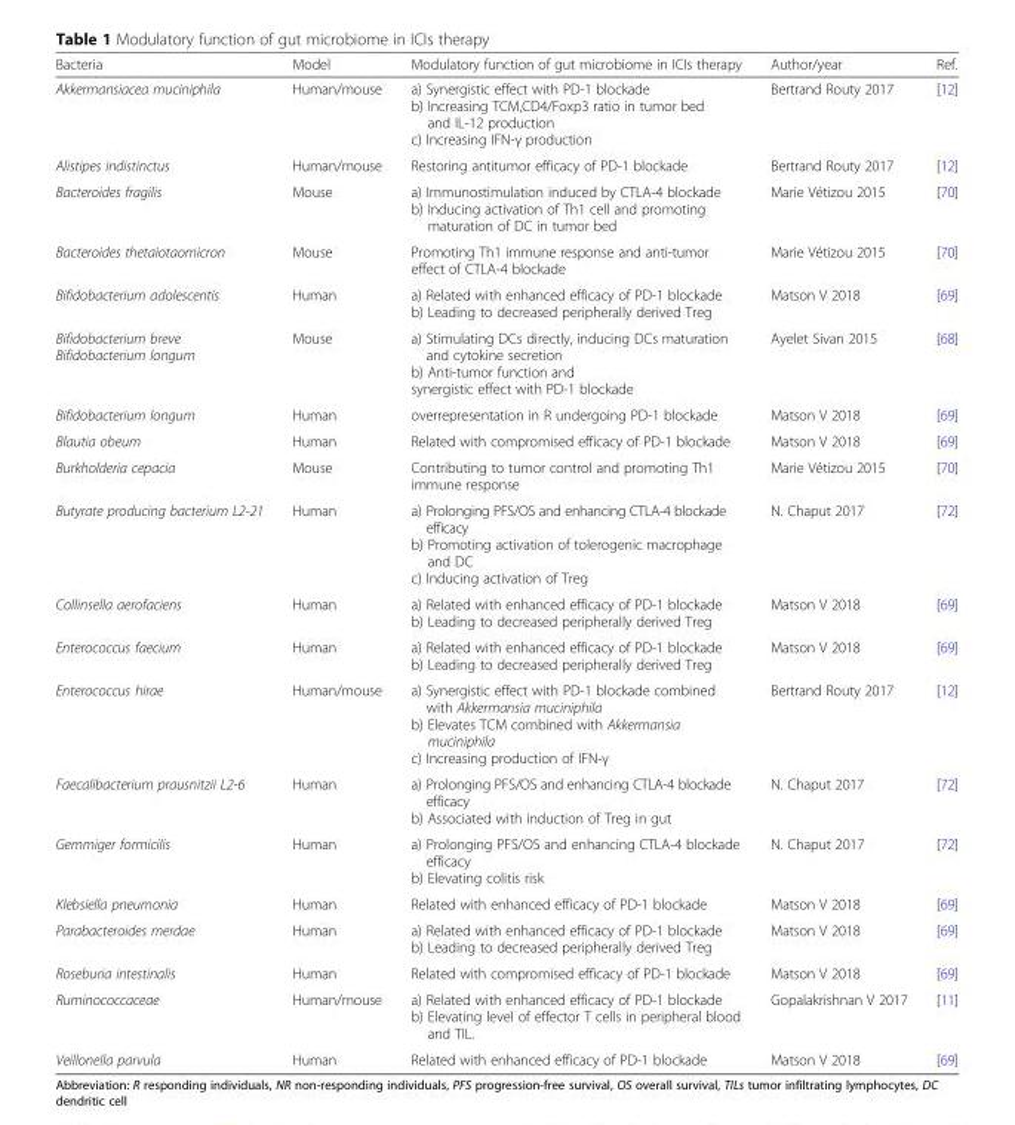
<table><thead><tr><td>Bacteria</td><td>Model</td><td>Modulatory function of gut microbiome in ICIs therapy</td><td>Author/year</td><td>Ref.</td></tr></thead><tbody><tr><td>Akkermansiacea muciniphila</td><td>Human/mouse</td><td>a) Synergistic effect with PD-1 blockade b) Increasing TCM,CD4/Foxp3 ratio in tumor bed and IL-12 production c) Increasing IFN-γ production</td><td>Bertrand Routy 2017</td><td>[12]</td></tr><tr><td>Alistipes indistinctus</td><td>Human/mouse</td><td>Restoring antitumor efficacy of PD-1 blockade</td><td>Bertrand Routy 2017</td><td>[12]</td></tr><tr><td>Bacteroides fragilis</td><td>Mouse</td><td>a) Immunostimulation induced by CTLA-4 blockade b) Inducing activation of Th1 cell and promoting maturation of DC in tumor bed</td><td>Marie Vétizou 2015</td><td>[70]</td></tr><tr><td>Bacteroides thetaiotaomicron</td><td>Mouse</td><td>Promoting Th1 immune response and anti-tumor effect of CTLA-4 blockade</td><td>Marie Vétizou 2015</td><td>[70]</td></tr><tr><td>Bifidobacterium adolescentis</td><td>Human</td><td>a) Related with enhanced efficacy of PD-1 blockade b) Leading to decreased peripherally derived Treg</td><td>Matson V 2018</td><td>[69]</td></tr><tr><td>Bifidobacterium breve Bifidobacterium longum</td><td>Mouse</td><td>a) Stimulating DCs directly, inducing DCs maturation and cytokine secretion b) Anti-tumor function and synergistic effect with PD-1 blockade</td><td>Ayelet Sivan 2015</td><td>[68]</td></tr><tr><td>Bifidobacterium longum</td><td>Human</td><td>overrepresentation in R undergoing PD-1 blockade</td><td>Matson V 2018</td><td>[69]</td></tr><tr><td>Blautia obeum</td><td>Human</td><td>Related with compromised efficacy of PD-1 blockade</td><td>Matson V 2018</td><td>[69]</td></tr><tr><td>Burkholderia cepacia</td><td>Mouse</td><td>Contributing to tumor control and promoting Th1 immune response</td><td>Marie Vétizou 2015</td><td>[70]</td></tr><tr><td>Butyrate producing bacterium L2-21</td><td>Human</td><td>a) Prolonging PFS/OS and enhancing CTLA-4 blockade efficacy b) Promoting activation of tolerogenic macrophage and DC c) Inducing activation of Treg</td><td>N. Chaput 2017</td><td>[72]</td></tr><tr><td>Collinsella aerofaciens</td><td>Human</td><td>a) Related with enhanced efficacy of PD-1 blockade b) Leading to decreased peripherally derived Treg</td><td>Matson V 2018</td><td>[69]</td></tr><tr><td>Enterococcus faecium</td><td>Human</td><td>a) Related with enhanced efficacy of PD-1 blockade b) Leading to decreased peripherally derived Treg</td><td>Matson V 2018</td><td>[69]</td></tr><tr><td>Enterococcus hirae</td><td>Human/mouse</td><td>a) Synergistic effect with PD-1 blockade combined with Akkermansia muciniphila b) Elevates TCM combined with Akkermansia muciniphila c) Increasing production of IFN-γ</td><td>Bertrand Routy 2017</td><td>[12]</td></tr><tr><td>Faecalibacterium prausnitzii L2-6</td><td>Human</td><td>a) Prolonging PFS/OS and enhancing CTLA-4 blockade efficacy b) Associated with induction of Treg in gut</td><td>N. Chaput 2017</td><td>[72]</td></tr><tr><td>Gemmiger formicilis</td><td>Human</td><td>a) Prolonging PFS/OS and enhancing CTLA-4 blockade efficacy b) Elevating colitis risk</td><td>N. Chaput 2017</td><td>[72]</td></tr><tr><td>Klebsiella pneumonia</td><td>Human</td><td>Related with enhanced efficacy of PD-1 blockade</td><td>Matson V 2018</td><td>[69]</td></tr><tr><td>Parabacteroides merdae</td><td>Human</td><td>a) Related with enhanced efficacy of PD-1 blockade b) Leading to decreased peripherally derived Treg</td><td>Matson V 2018</td><td>[69]</td></tr><tr><td>Roseburia intestinalis</td><td>Human</td><td>Related with compromised efficacy of PD-1 blockade</td><td>Matson V 2018</td><td>[69]</td></tr><tr><td>Ruminococcaceae</td><td>Human/mouse</td><td>a) Related with enhanced efficacy of PD-1 blockade b) Elevating level of effector T cells in peripheral blood and TIL.</td><td>Gopalakrishnan V 2017</td><td>[11]</td></tr><tr><td>Veillonella parvula</td><td>Human</td><td>Related with enhanced efficacy of PD-1 blockade</td><td>Matson V 2018</td><td>[69]</td></tr></tbody></table>